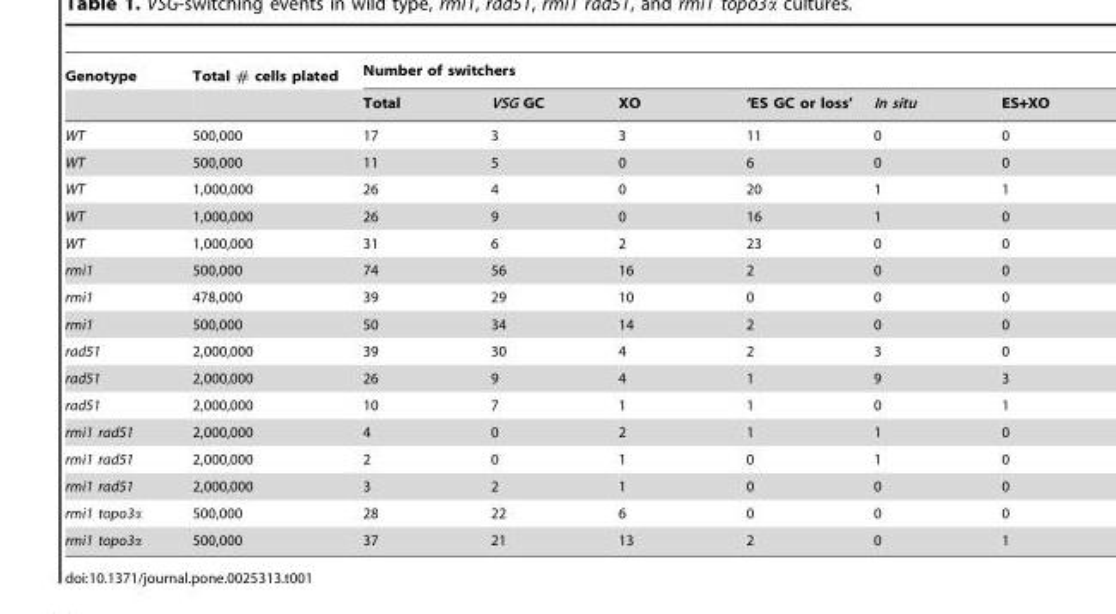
<table><thead><tr><td rowspan="2">Genotype</td><td rowspan="2">Total # cells plated</td><td colspan="6">Number of switchers</td></tr><tr><td>Total</td><td>VSG GC</td><td>XO</td><td>‘ES GC or loss’</td><td>In situ</td><td>ES+XO</td></tr></thead><tbody><tr><td>WT</td><td>500,000</td><td>17</td><td>3</td><td>3</td><td>11</td><td>0</td><td>0</td></tr><tr><td>WT</td><td>500,000</td><td>11</td><td>5</td><td>0</td><td>6</td><td>0</td><td>0</td></tr><tr><td>WT</td><td>1,000,000</td><td>26</td><td>4</td><td>0</td><td>20</td><td>1</td><td>1</td></tr><tr><td>WT</td><td>1,000,000</td><td>26</td><td>9</td><td>0</td><td>16</td><td>1</td><td>0</td></tr><tr><td>WT</td><td>1,000,000</td><td>31</td><td>6</td><td>2</td><td>23</td><td>0</td><td>0</td></tr><tr><td>rmi1</td><td>500,000</td><td>74</td><td>56</td><td>16</td><td>2</td><td>0</td><td>0</td></tr><tr><td>rmi1</td><td>478,000</td><td>39</td><td>29</td><td>10</td><td>0</td><td>0</td><td>0</td></tr><tr><td>rmi1</td><td>500,000</td><td>50</td><td>34</td><td>14</td><td>2</td><td>0</td><td>0</td></tr><tr><td>rad51</td><td>2,000,000</td><td>39</td><td>30</td><td>4</td><td>2</td><td>3</td><td>0</td></tr><tr><td>rad51</td><td>2,000,000</td><td>26</td><td>9</td><td>4</td><td>1</td><td>9</td><td>3</td></tr><tr><td>rad51</td><td>2,000,000</td><td>10</td><td>7</td><td>1</td><td>1</td><td>0</td><td>1</td></tr><tr><td>rmi1 rad51</td><td>2,000,000</td><td>4</td><td>0</td><td>2</td><td>1</td><td>1</td><td>0</td></tr><tr><td>rmi1 rad51</td><td>2,000,000</td><td>2</td><td>0</td><td>1</td><td>0</td><td>1</td><td>0</td></tr><tr><td>rmi1 rad51</td><td>2,000,000</td><td>3</td><td>2</td><td>1</td><td>0</td><td>0</td><td>0</td></tr><tr><td>rmi1 topo3α</td><td>500,000</td><td>28</td><td>22</td><td>6</td><td>0</td><td>0</td><td>0</td></tr><tr><td>rmi1 topo3α</td><td>500,000</td><td>37</td><td>21</td><td>13</td><td>2</td><td>0</td><td>1</td></tr></tbody></table>